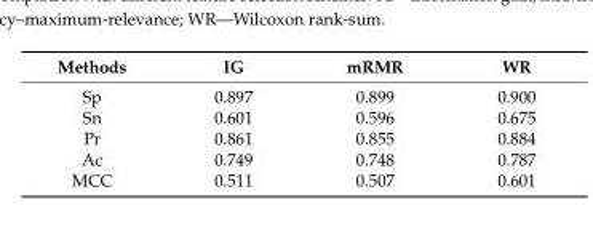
<table><thead><tr><td>Methods</td><td>IG</td><td>mRMR</td><td>WR</td></tr></thead><tbody><tr><td>Sp</td><td>0.897</td><td>0.899</td><td>0.900</td></tr><tr><td>Sn</td><td>0.601</td><td>0.596</td><td>0.675</td></tr><tr><td>Pr</td><td>0.861</td><td>0.855</td><td>0.884</td></tr><tr><td>Ac</td><td>0.749</td><td>0.748</td><td>0.787</td></tr><tr><td>MCC</td><td>0.511</td><td>0.507</td><td>0.601</td></tr></tbody></table>